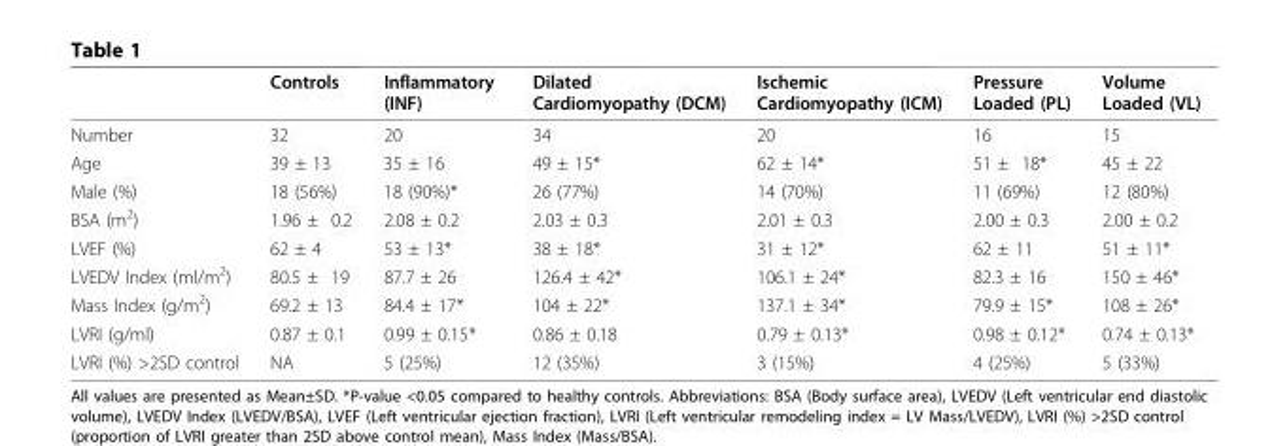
<table><thead><tr><td></td><td>Controls</td><td>Inflammatory (INF)</td><td>Dilated Cardiomyopathy (DCM)</td><td>Ischemic Cardiomyopathy (ICM)</td><td>Pressure Loaded (PL)</td><td>Volume Loaded (VL)</td></tr></thead><tbody><tr><td>Number</td><td>32</td><td>20</td><td>34</td><td>20</td><td>16</td><td>15</td></tr><tr><td>Age</td><td>39 ± 13</td><td>35 ± 16</td><td>49 ± 15*</td><td>62 ± 14*</td><td>51 ± 18*</td><td>45 ± 22</td></tr><tr><td>Male (%)</td><td>18 (56%)</td><td>18 (90%)*</td><td>26 (77%)</td><td>14 (70%)</td><td>11 (69%)</td><td>12 (80%)</td></tr><tr><td>BSA (m<sup>2</sup>)</td><td>1.96 ± 0.2</td><td>2.08 ± 0.2</td><td>2.03 ± 0.3</td><td>2.01 ± 0.3</td><td>2.00 ± 0.3</td><td>2.00 ± 0.2</td></tr><tr><td>LVEF (%)</td><td>62 ± 4</td><td>53 ± 13*</td><td>38 ± 18*</td><td>31 ± 12*</td><td>62 ± 11</td><td>51 ± 11*</td></tr><tr><td>LVEDV Index (ml/m<sup>2</sup>)</td><td>80.5 ± 19</td><td>87.7 ± 26</td><td>126.4 ± 42*</td><td>106.1 ± 24*</td><td>82.3 ± 16</td><td>150 ± 46*</td></tr><tr><td>Mass Index (g/m<sup>2</sup>)</td><td>69.2 ± 13</td><td>84.4 ± 17*</td><td>104 ± 22*</td><td>137.1 ± 34*</td><td>79.9 ± 15*</td><td>108 ± 26*</td></tr><tr><td>LVRI (g/ml)</td><td>0.87 ± 0.1</td><td>0.99 ± 0.15*</td><td>0.86 ± 0.18</td><td>0.79 ± 0.13*</td><td>0.98 ± 0.12*</td><td>0.74 ± 0.13*</td></tr><tr><td>LVRI (%) &gt;2SD control</td><td>NA</td><td>5 (25%)</td><td>12 (35%)</td><td>3 (15%)</td><td>4 (25%)</td><td>5 (33%)</td></tr></tbody></table>